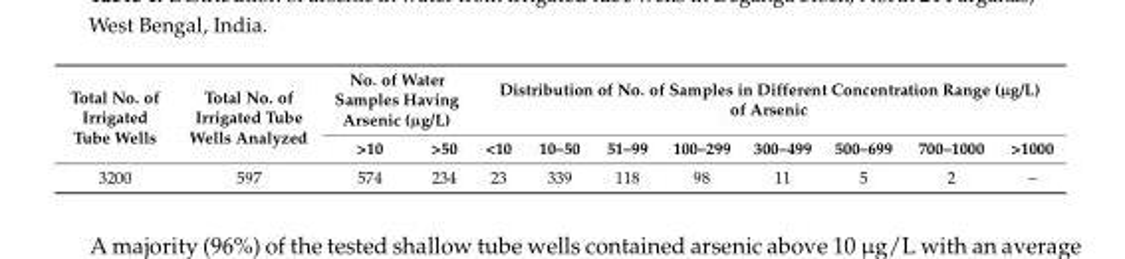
<table><thead><tr><td rowspan="2">Total No. of Irrigated Tube Wells</td><td rowspan="2">Total No. of Irrigated Tube Wells Analyzed</td><td colspan="2">No. of Water Samples Having Arsenic (µg/L)</td><td colspan="8">Distribution of No. of Samples in Different Concentration Range (µg/L) of Arsenic</td></tr><tr><td>&gt;10</td><td>&gt;50</td><td>&lt;10</td><td>10–50</td><td>51–99</td><td>100–299</td><td>300–499</td><td>500–699</td><td>700–1000</td><td>&gt;1000</td></tr></thead><tbody><tr><td>3200</td><td>597</td><td>574</td><td>234</td><td>23</td><td>339</td><td>118</td><td>98</td><td>11</td><td>5</td><td>2</td><td>–</td></tr></tbody></table>